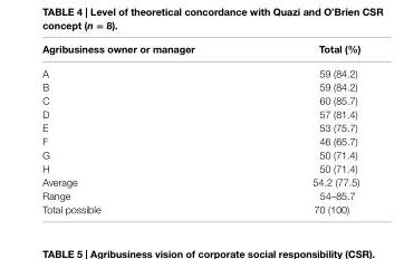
<table><thead><tr><td>agribusiness owner or manager</td><td>Total (%)</td></tr></thead><tbody><tr><td>A</td><td>59 (84.2)</td></tr><tr><td>B</td><td>59 (84.2)</td></tr><tr><td>C</td><td>60 (85.7)</td></tr><tr><td>D</td><td>57 (81.4)</td></tr><tr><td>E</td><td>53 (75.7)</td></tr><tr><td>F</td><td>46 (65.7)</td></tr><tr><td>G</td><td>50 (71.4)</td></tr><tr><td>H</td><td>50 (71.4)</td></tr><tr><td>Average</td><td>54.2 (77.5)</td></tr><tr><td>Range</td><td>54–85.7</td></tr><tr><td>Total possible</td><td>70 (100)</td></tr></tbody></table>